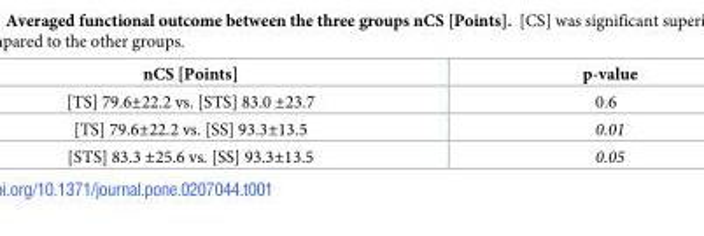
<table><thead><tr><td>nCS [Points]</td><td>p-value</td></tr></thead><tbody><tr><td>[TS] 79.6±22.2 vs. [STS] 83.0 ±23.7</td><td>0.6</td></tr><tr><td>[TS] 79.6±22.2 vs. [SS] 93.3±13.5</td><td>0.01</td></tr><tr><td>[STS] 83.3 ±25.6 vs. [SS] 93.3±13.5</td><td>0.05</td></tr></tbody></table>